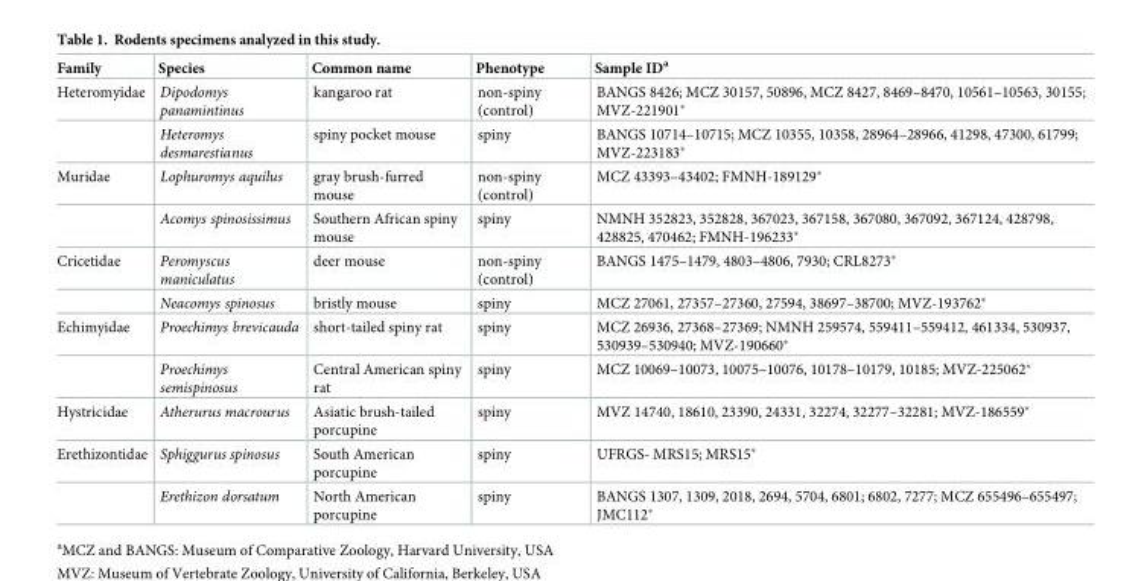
<table><thead><tr><td>Family</td><td>Species</td><td>Common name</td><td>Phenotype</td><td>Sample ID<sup>a</sup></td></tr></thead><tbody><tr><td rowspan="2">Heteromyidae</td><td>Dipodomys panamintinus</td><td>kangaroo rat</td><td>non-spiny (control)</td><td>BANGS 8426; MCZ 30157, 50896, MCZ 8427, 8469–8470, 10561–10563, 30155; MVZ-221901*</td></tr><tr><td>Heteromys desmarestianus</td><td>spiny pocket mouse</td><td>spiny</td><td>BANGS 10714–10715; MCZ 10355, 10358, 28964–28966, 41298, 47300, 61799; MVZ-223183*</td></tr><tr><td rowspan="2">Muridae</td><td>Lophuromys aquilus</td><td>gray brush-furred mouse</td><td>non-spiny (control)</td><td>MCZ 43393–43402; FMNH-189129*</td></tr><tr><td>Acomys spinosissimus</td><td>Southern African spiny mouse</td><td>spiny</td><td>NMNH 352823, 352828, 367023, 367158, 367080, 367092, 367124, 428798, 428825, 470462; FMNH-196233*</td></tr><tr><td rowspan="2">Cricetidae</td><td>Peromyscus maniculatus</td><td>deer mouse</td><td>non-spiny (control)</td><td>BANGS 1475–1479, 4803–4806, 7930; CRL8273*</td></tr><tr><td>Neacomys spinosus</td><td>bristly mouse</td><td>spiny</td><td>MCZ 27061, 27357–27360, 27594, 38697–38700; MVZ-193762*</td></tr><tr><td rowspan="2">Echimyidae</td><td>Proechimys brevicauda</td><td>short-tailed spiny rat</td><td>spiny</td><td>MCZ 26936, 27368–27369; NMNH 259574, 559411–559412, 461334, 530937, 530939–530940; MVZ-190660*</td></tr><tr><td>Proechimys semispinosus</td><td>Central American spiny rat</td><td>spiny</td><td>MCZ 10069–10073, 10075–10076, 10178–10179, 10185; MVZ-225062*</td></tr><tr><td>Hystricidae</td><td>Atherurus macrourus</td><td>Asiatic brush-tailed porcupine</td><td>spiny</td><td>MVZ 14740, 18610, 23390, 24331, 32274, 32277–32281; MVZ-186559*</td></tr><tr><td rowspan="2">Erethizontidae</td><td>Sphiggurus spinosus</td><td>South American porcupine</td><td>spiny</td><td>UFRGS- MRS15; MRS15*</td></tr><tr><td>Erethizon dorsatum</td><td>North American porcupine</td><td>spiny</td><td>BANGS 1307, 1309, 2018, 2694, 5704, 6801; 6802, 7277; MCZ 655496–655497; JMC112*</td></tr></tbody></table>